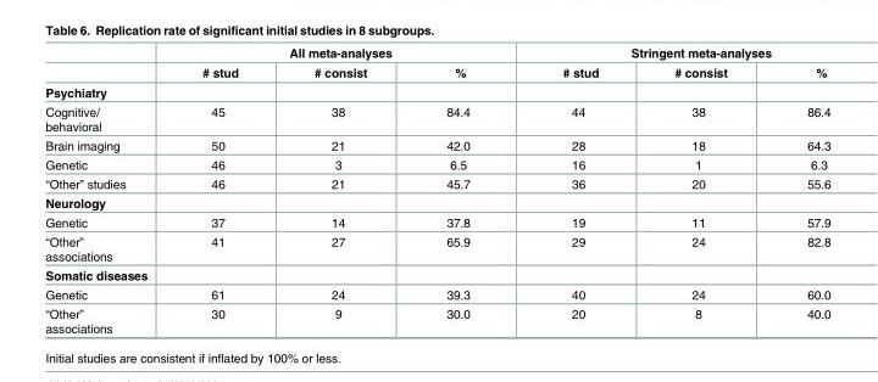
<table><thead><tr><td rowspan="2"></td><td colspan="3">All meta-analyses</td><td colspan="3">Stringent meta-analyses</td></tr><tr><td># stud</td><td># consist</td><td>%</td><td># stud</td><td># consist</td><td>%</td></tr></thead><tbody><tr><td colspan="7">Psychiatry</td></tr><tr><td>Cognitive/ behavioral</td><td>45</td><td>38</td><td>84.4</td><td>44</td><td>38</td><td>86.4</td></tr><tr><td>Brain imaging</td><td>50</td><td>21</td><td>42.0</td><td>28</td><td>18</td><td>64.3</td></tr><tr><td>Genetic</td><td>46</td><td>3</td><td>6.5</td><td>16</td><td>1</td><td>6.3</td></tr><tr><td>“Other” studies</td><td>46</td><td>21</td><td>45.7</td><td>36</td><td>20</td><td>55.6</td></tr><tr><td colspan="7">Neurology</td></tr><tr><td>Genetic</td><td>37</td><td>14</td><td>37.8</td><td>19</td><td>11</td><td>57.9</td></tr><tr><td>“Other” associations</td><td>41</td><td>27</td><td>65.9</td><td>29</td><td>24</td><td>82.8</td></tr><tr><td colspan="7">Somatic diseases</td></tr><tr><td>Genetic</td><td>61</td><td>24</td><td>39.3</td><td>40</td><td>24</td><td>60.0</td></tr><tr><td>“Other” associations</td><td>30</td><td>9</td><td>30.0</td><td>20</td><td>8</td><td>40.0</td></tr></tbody></table>